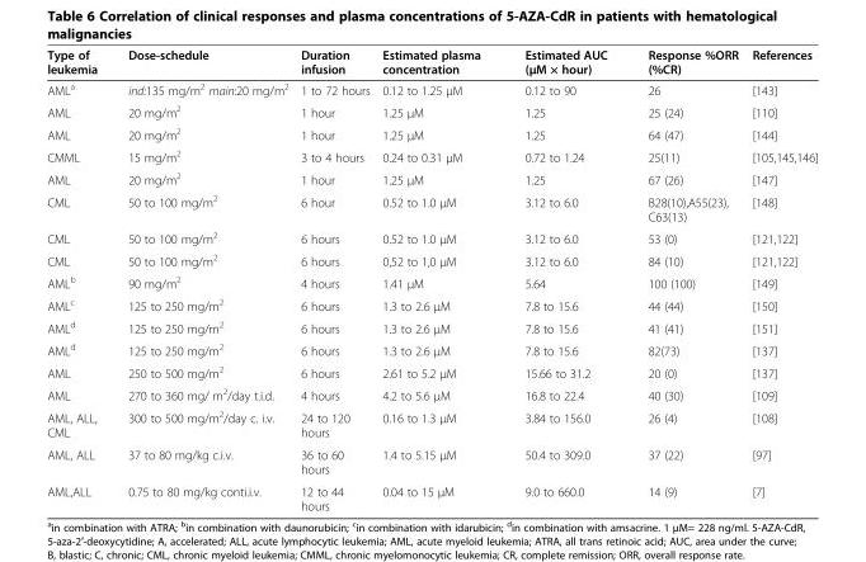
<table><thead><tr><td>Type of leukemia</td><td>Dose-schedule</td><td>Duration infusion</td><td>Estimated plasma concentration</td><td>Estimated AUC (μM × hour)</td><td>Response %ORR (%CR)</td><td>References</td></tr></thead><tbody><tr><td>AML<sup>a</sup></td><td>ind:135 mg/m<sup>2</sup> main:20 mg/m<sup>2</sup></td><td>1 to 72 hours</td><td>0.12 to 1.25 μM</td><td>0.12 to 90</td><td>26</td><td>[143]</td></tr><tr><td>AML</td><td>20 mg/m<sup>2</sup></td><td>1 hour</td><td>1.25 μM</td><td>1.25</td><td>25 (24)</td><td>[110]</td></tr><tr><td>AML</td><td>20 mg/m<sup>2</sup></td><td>1 hour</td><td>1.25 μM</td><td>1.25</td><td>64 (47)</td><td>[144]</td></tr><tr><td>CMML</td><td>15 mg/m<sup>2</sup></td><td>3 to 4 hours</td><td>0.24 to 0.31 μM</td><td>0.72 to 1.24</td><td>25(11)</td><td>[105,145,146]</td></tr><tr><td>AML</td><td>20 mg/m<sup>2</sup></td><td>1 hour</td><td>1.25 μM</td><td>1.25</td><td>67 (26)</td><td>[147]</td></tr><tr><td>CML</td><td>50 to 100 mg/m<sup>2</sup></td><td>6 hour</td><td>0.52 to 1.0 μM</td><td>3.12 to 6.0</td><td>B28(10),A55(23), C63(13)</td><td>[148]</td></tr><tr><td>CML</td><td>50 to 100 mg/m<sup>2</sup></td><td>6 hours</td><td>0.52 to 1.0 μM</td><td>3.12 to 6.0</td><td>53 (0)</td><td>[121,122]</td></tr><tr><td>CML</td><td>50 to 100 mg/m<sup>2</sup></td><td>6 hours</td><td>0,52 to 1,0 μM</td><td>3.12 to 6.0</td><td>84 (10)</td><td>[121,122]</td></tr><tr><td>AML<sup>b</sup></td><td>90 mg/m<sup>2</sup></td><td>4 hours</td><td>1.41 μM</td><td>5.64</td><td>100 (100)</td><td>[149]</td></tr><tr><td>AML<sup>c</sup></td><td>125 to 250 mg/m<sup>2</sup></td><td>6 hours</td><td>1.3 to 2.6 μM</td><td>7.8 to 15.6</td><td>44 (44)</td><td>[150]</td></tr><tr><td>AML<sup>d</sup></td><td>125 to 250 mg/m<sup>2</sup></td><td>6 hours</td><td>1.3 to 2.6 μM</td><td>7.8 to 15.6</td><td>41 (41)</td><td>[151]</td></tr><tr><td>AML<sup>d</sup></td><td>125 to 250 mg/m<sup>2</sup></td><td>6 hours</td><td>1.3 to 2.6 μM</td><td>7.8 to 15.6</td><td>82(73)</td><td>[137]</td></tr><tr><td>AML</td><td>250 to 500 mg/m<sup>2</sup></td><td>6 hours</td><td>2.61 to 5.2 μM</td><td>15.66 to 31.2</td><td>20 (0)</td><td>[137]</td></tr><tr><td>AML</td><td>270 to 360 mg/ m<sup>2</sup>/day t.i.d.</td><td>4 hours</td><td>4.2 to 5.6 μM</td><td>16.8 to 22.4</td><td>40 (30)</td><td>[109]</td></tr><tr><td>AML, ALL, CML</td><td>300 to 500 mg/m<sup>2</sup>/day c. i.v.</td><td>24 to 120 hours</td><td>0.16 to 1.3 μM</td><td>3.84 to 156.0</td><td>26 (4)</td><td>[108]</td></tr><tr><td>AML, ALL</td><td>37 to 80 mg/kg c.i.v.</td><td>36 to 60 hours</td><td>1.4 to 5.15 μM</td><td>50.4 to 309.0</td><td>37 (22)</td><td>[97]</td></tr><tr><td>AML,ALL</td><td>0.75 to 80 mg/kg conti.i.v.</td><td>12 to 44 hours</td><td>0.04 to 15 μM</td><td>9.0 to 660.0</td><td>14 (9)</td><td>[7]</td></tr></tbody></table>